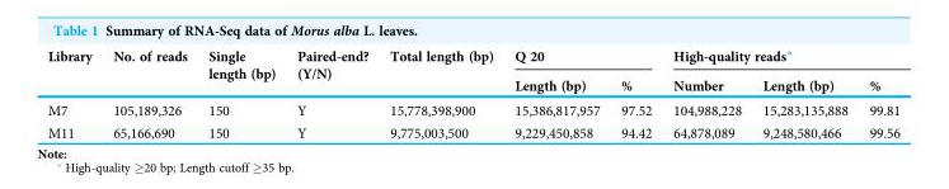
<table><thead><tr><td rowspan="2">Library</td><td rowspan="2">No. of reads</td><td rowspan="2">Single length (bp)</td><td rowspan="2">Paired-end? (Y/N)</td><td rowspan="2">Total length (bp)</td><td colspan="2">Q 20</td><td colspan="3">High-quality reads*</td></tr><tr><td>Length (bp)</td><td>%</td><td>Number</td><td>Length (bp)</td><td>%</td></tr></thead><tbody><tr><td>M7</td><td>105,189,326</td><td>150</td><td>Y</td><td>15,778,398,900</td><td>15,386,817,957</td><td>97.52</td><td>104,988,228</td><td>15,283,135,888</td><td>99.81</td></tr><tr><td>M11</td><td>65,166,690</td><td>150</td><td>Y</td><td>9,775,003,500</td><td>9,229,450,858</td><td>94.42</td><td>64,878,089</td><td>9,248,580,466</td><td>99.56</td></tr></tbody></table>